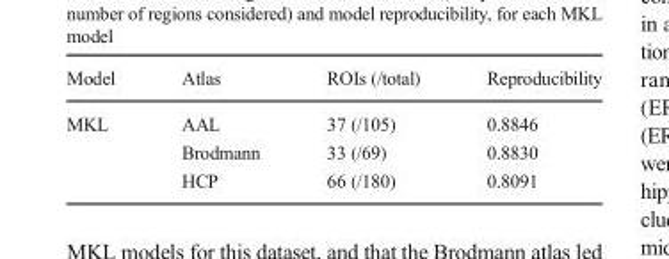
<table><thead><tr><td>Model</td><td>Atlas</td><td>ROIs (/total)</td><td>Reproducibility</td></tr></thead><tbody><tr><td rowspan="3">MKL</td><td>AAL</td><td>37 (/105)</td><td>0.8846</td></tr><tr><td>Brodmann</td><td>33 (/69)</td><td>0.8830</td></tr><tr><td>HCP</td><td>66 (/180)</td><td>0.8091</td></tr></tbody></table>